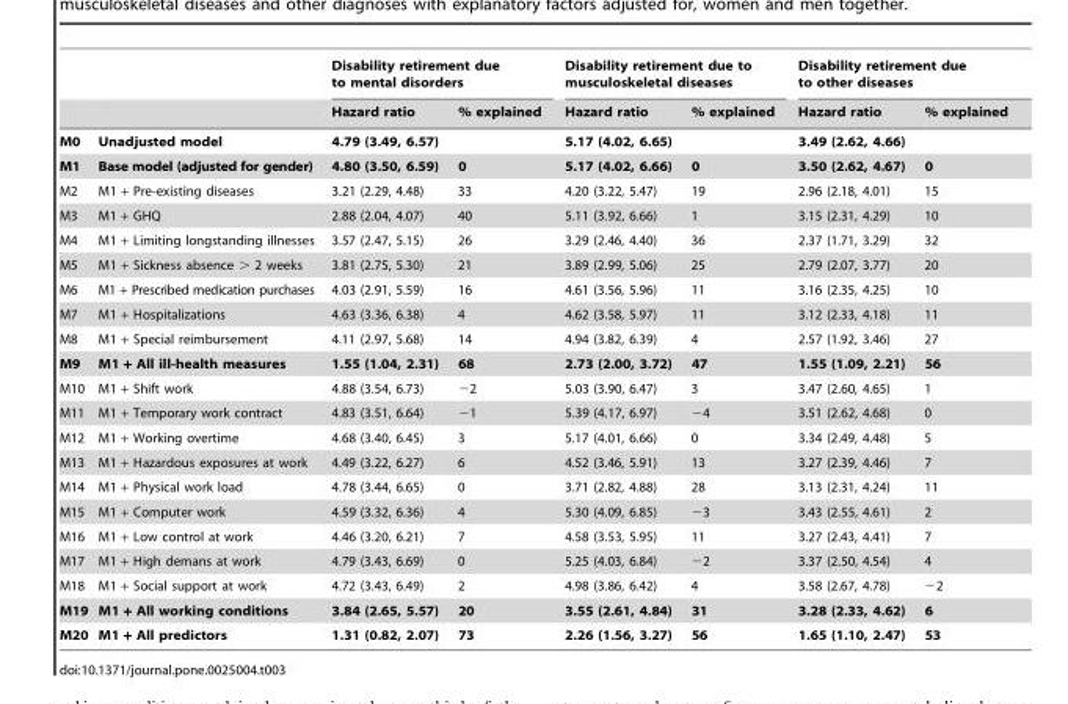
<table><thead><tr><td rowspan="2"></td><td rowspan="2"></td><td colspan="2">Disability retirement due to mental disorders</td><td colspan="2">Disability retirement due to musculoskeletal diseases</td><td colspan="2">Disability retirement due to other diseases</td></tr><tr><td>Hazard ratio</td><td>% explained</td><td>Hazard ratio</td><td>% explained</td><td>Hazard ratio</td><td>% explained</td></tr></thead><tbody><tr><td>M0</td><td>Unadjusted model</td><td>4.79 (3.49, 6.57)</td><td></td><td>5.17 (4.02, 6.65)</td><td></td><td>3.49 (2.62, 4.66)</td><td></td></tr><tr><td>M1</td><td>Base model (adjusted for gender)</td><td>4.80 (3.50, 6.59)</td><td>0</td><td>5.17 (4.02, 6.66)</td><td>0</td><td>3.50 (2.62, 4.67)</td><td>0</td></tr><tr><td>M2</td><td>M1 + Pre-existing diseases</td><td>3.21 (2.29, 4.48)</td><td>33</td><td>4.20 (3.22, 5.47)</td><td>19</td><td>2.96 (2.18, 4.01)</td><td>15</td></tr><tr><td>M3</td><td>M1 + GHQ</td><td>2.88 (2.04, 4.07)</td><td>40</td><td>5.11 (3.92, 6.66)</td><td>1</td><td>3.15 (2.31, 4.29)</td><td>10</td></tr><tr><td>M4</td><td>M1 + Limiting longstanding illnesses</td><td>3.57 (2.47, 5.15)</td><td>26</td><td>3.29 (2.46, 4.40)</td><td>36</td><td>2.37 (1.71, 3.29)</td><td>32</td></tr><tr><td>M5</td><td>M1 + Sickness absence &gt; 2 weeks</td><td>3.81 (2.75, 5.30)</td><td>21</td><td>3.89 (2.99, 5.06)</td><td>25</td><td>2.79 (2.07, 3.77)</td><td>20</td></tr><tr><td>M6</td><td>M1 + Prescribed medication purchases</td><td>4.03 (2.91, 5.59)</td><td>16</td><td>4.61 (3.56, 5.96)</td><td>11</td><td>3.16 (2.35, 4.25)</td><td>10</td></tr><tr><td>M7</td><td>M1 + Hospitalizations</td><td>4.63 (3.36, 6.38)</td><td>4</td><td>4.62 (3.58, 5.97)</td><td>11</td><td>3.12 (2.33, 4.18)</td><td>11</td></tr><tr><td>M8</td><td>M1 + Special reimbursement</td><td>4.11 (2.97, 5.68)</td><td>14</td><td>4.94 (3.82, 6.39)</td><td>4</td><td>2.57 (1.92, 3.46)</td><td>27</td></tr><tr><td>M9</td><td>M1 + All ill-health measures</td><td>1.55 (1.04, 2.31)</td><td>68</td><td>2.73 (2.00, 3.72)</td><td>47</td><td>1.55 (1.09, 2.21)</td><td>56</td></tr><tr><td>M10</td><td>M1 + Shift work</td><td>4.88 (3.54, 6.73)</td><td>−2</td><td>5.03 (3.90, 6.47)</td><td>3</td><td>3.47 (2.60, 4.65)</td><td>1</td></tr><tr><td>M11</td><td>M1 + Temporary work contract</td><td>4.83 (3.51, 6.64)</td><td>−1</td><td>5.39 (4.17, 6.97)</td><td>−4</td><td>3.51 (2.62, 4.68)</td><td>0</td></tr><tr><td>M12</td><td>M1 + Working overtime</td><td>4.68 (3.40, 6.45)</td><td>3</td><td>5.17 (4.01, 6.66)</td><td>0</td><td>3.34 (2.49, 4.48)</td><td>5</td></tr><tr><td>M13</td><td>M1 + Hazardous exposures at work</td><td>4.49 (3.22, 6.27)</td><td>6</td><td>4.52 (3.46, 5.91)</td><td>13</td><td>3.27 (2.39, 4.46)</td><td>7</td></tr><tr><td>M14</td><td>M1 + Physical work load</td><td>4.78 (3.44, 6.65)</td><td>0</td><td>3.71 (2.82, 4.88)</td><td>28</td><td>3.13 (2.31, 4.24)</td><td>11</td></tr><tr><td>M15</td><td>M1 + Computer work</td><td>4.59 (3.32, 6.36)</td><td>4</td><td>5.30 (4.09, 6.85)</td><td>−3</td><td>3.43 (2.55, 4.61)</td><td>2</td></tr><tr><td>M16</td><td>M1 + Low control at work</td><td>4.46 (3.20, 6.21)</td><td>7</td><td>4.58 (3.53, 5.95)</td><td>11</td><td>3.27 (2.43, 4.41)</td><td>7</td></tr><tr><td>M17</td><td>M1 + High demans at work</td><td>4.79 (3.43, 6.69)</td><td>0</td><td>5.25 (4.03, 6.84)</td><td>−2</td><td>3.37 (2.50, 4.54)</td><td>4</td></tr><tr><td>M18</td><td>M1 + Social support at work</td><td>4.72 (3.43, 6.49)</td><td>2</td><td>4.98 (3.86, 6.42)</td><td>4</td><td>3.58 (2.67, 4.78)</td><td>−2</td></tr><tr><td>M19</td><td>M1 + All working conditions</td><td>3.84 (2.65, 5.57)</td><td>20</td><td>3.55 (2.61, 4.84)</td><td>31</td><td>3.28 (2.33, 4.62)</td><td>6</td></tr><tr><td>M20</td><td>M1 + All predictors</td><td>1.31 (0.82, 2.07)</td><td>73</td><td>2.26 (1.56, 3.27)</td><td>56</td><td>1.65 (1.10, 2.47)</td><td>53</td></tr></tbody></table>